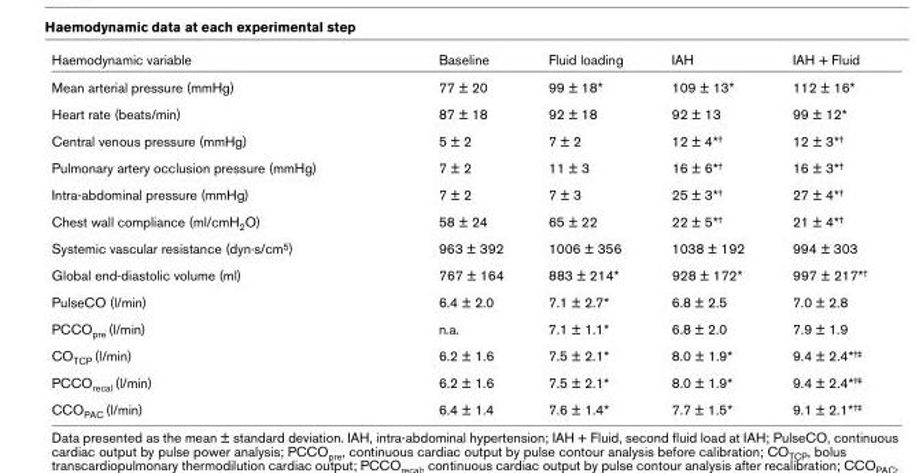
<table><thead><tr><td>Haemodynamic variable</td><td>Baseline</td><td>Fluid loading</td><td>IAH</td><td>IAH + Fluid</td></tr></thead><tbody><tr><td>Mean arterial pressure (mmHg)</td><td>77 ± 20</td><td>99 ± 18*</td><td>109 ± 13*</td><td>112 ± 16*</td></tr><tr><td>Heart rate (beats/min)</td><td>87 ± 18</td><td>92 ± 18</td><td>92 ± 13</td><td>99 ± 12*</td></tr><tr><td>Central venous pressure (mmHg)</td><td>5 ± 2</td><td>7 ± 2</td><td>12 ± 4*<sup>†</sup></td><td>12 ± 3*<sup>†</sup></td></tr><tr><td>Pulmonary artery occlusion pressure (mmHg)</td><td>7 ± 2</td><td>11 ± 3</td><td>16 ± 6*<sup>†</sup></td><td>16 ± 3*<sup>†</sup></td></tr><tr><td>Intra-abdominal pressure (mmHg)</td><td>7 ± 2</td><td>7 ± 3</td><td>25 ± 3*<sup>†</sup></td><td>27 ± 4*<sup>†</sup></td></tr><tr><td>Chest wall compliance (ml/cmH<sub>2</sub>O)</td><td>58 ± 24</td><td>65 ± 22</td><td>22 ± 5*<sup>†</sup></td><td>21 ± 4*<sup>†</sup></td></tr><tr><td>Systemic vascular resistance (dyn·s/cm<sup>5</sup>)</td><td>963 ± 392</td><td>1006 ± 356</td><td>1038 ± 192</td><td>994 ± 303</td></tr><tr><td>Global end-diastolic volume (ml)</td><td>767 ± 164</td><td>883 ± 214*</td><td>928 ± 172*</td><td>997 ± 217*<sup>†</sup></td></tr><tr><td>PulseCO (l/min)</td><td>6.4 ± 2.0</td><td>7.1 ± 2.7*</td><td>6.8 ± 2.5</td><td>7.0 ± 2.8</td></tr><tr><td>PCCO<sub>pre</sub> (l/min)</td><td>n.a.</td><td>7.1 ± 1.1*</td><td>6.8 ± 2.0</td><td>7.9 ± 1.9</td></tr><tr><td>CO<sub>TCP</sub> (l/min)</td><td>6.2 ± 1.6</td><td>7.5 ± 2.1*</td><td>8.0 ± 1.9*</td><td>9.4 ± 2.4*<sup>†‡</sup></td></tr><tr><td>PCCO<sub>recal</sub> (l/min)</td><td>6.2 ± 1.6</td><td>7.5 ± 2.1*</td><td>8.0 ± 1.9*</td><td>9.4 ± 2.4*<sup>†‡</sup></td></tr><tr><td>CCO<sub>PAC</sub> (l/min)</td><td>6.4 ± 1.4</td><td>7.6 ± 1.4*</td><td>7.7 ± 1.5*</td><td>9.1 ± 2.1*<sup>†‡</sup></td></tr></tbody></table>